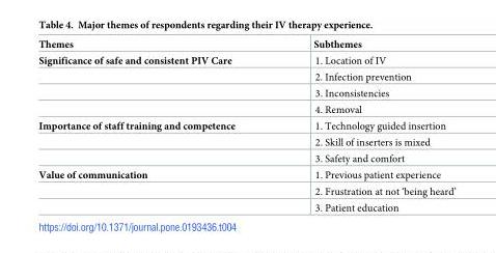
<table><thead><tr><td>Themes</td><td>Subthemes</td></tr></thead><tbody><tr><td rowspan="4">Significance of safe and consistent PIV Care</td><td>1. Location of IV</td></tr><tr><td>2. Infection prevention</td></tr><tr><td>3. Inconsistencies</td></tr><tr><td>4. Removal</td></tr><tr><td rowspan="3">Importance of staff training and competence</td><td>1. Technology guided insertion</td></tr><tr><td>2. Skill of inserters is mixed</td></tr><tr><td>3. Safety and comfort</td></tr><tr><td rowspan="3">Value of communication</td><td>1. Previous patient experience</td></tr><tr><td>2. Frustration at not ‘being heard’</td></tr><tr><td>3. Patient education</td></tr></tbody></table>